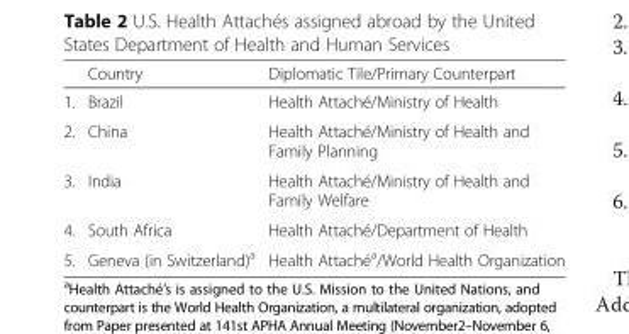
<table><thead><tr><td></td><td>Country</td><td>Diplomatic Tile/Primary Counterpart</td></tr></thead><tbody><tr><td>1.</td><td>Brazil</td><td>Health Attaché/Ministry of Health</td></tr><tr><td>2.</td><td>China</td><td>Health Attaché/Ministry of Health and Family Planning</td></tr><tr><td>3.</td><td>India</td><td>Health Attaché/Ministry of Health and Family Welfare</td></tr><tr><td>4.</td><td>South Africa</td><td>Health Attaché/Department of Health</td></tr><tr><td>5.</td><td>Geneva (in Switzerland)<sup>a</sup></td><td>Health Attaché<sup>a</sup>/World Health Organization</td></tr></tbody></table>